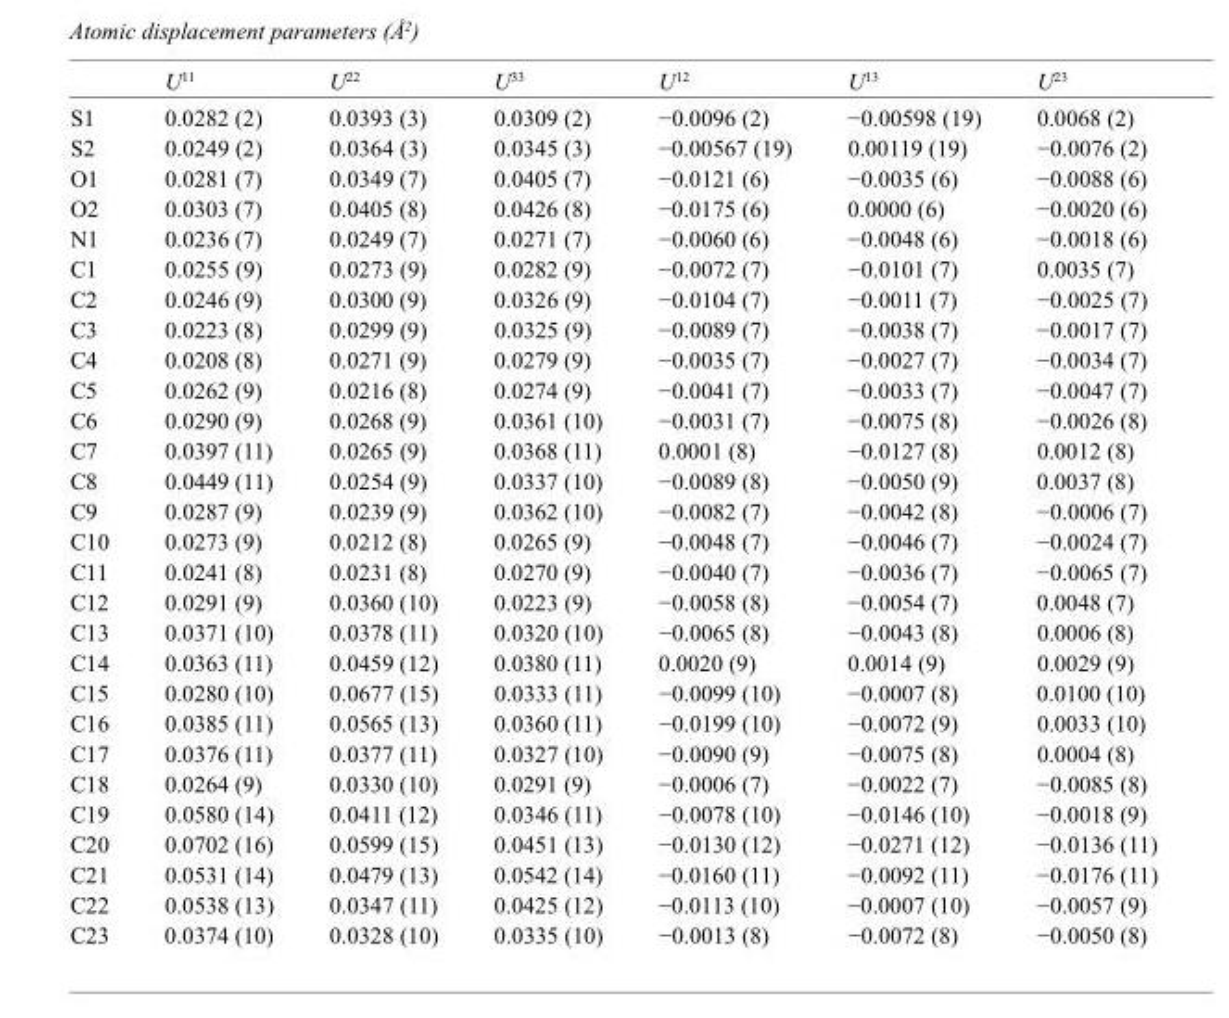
<table><thead><tr><td></td><td>U<sup>11</sup></td><td>U<sup>22</sup></td><td>U<sup>33</sup></td><td>U<sup>12</sup></td><td>U<sup>13</sup></td><td>U<sup>23</sup></td></tr></thead><tbody><tr><td>S1</td><td>0.0282 (2)</td><td>0.0393 (3)</td><td>0.0309 (2)</td><td>−0.0096 (2)</td><td>−0.00598 (19)</td><td>0.0068 (2)</td></tr><tr><td>S2</td><td>0.0249 (2)</td><td>0.0364 (3)</td><td>0.0345 (3)</td><td>−0.00567 (19)</td><td>0.00119 (19)</td><td>−0.0076 (2)</td></tr><tr><td>O1</td><td>0.0281 (7)</td><td>0.0349 (7)</td><td>0.0405 (7)</td><td>−0.0121 (6)</td><td>−0.0035 (6)</td><td>−0.0088 (6)</td></tr><tr><td>O2</td><td>0.0303 (7)</td><td>0.0405 (8)</td><td>0.0426 (8)</td><td>−0.0175 (6)</td><td>0.0000 (6)</td><td>−0.0020 (6)</td></tr><tr><td>N1</td><td>0.0236 (7)</td><td>0.0249 (7)</td><td>0.0271 (7)</td><td>−0.0060 (6)</td><td>−0.0048 (6)</td><td>−0.0018 (6)</td></tr><tr><td>C1</td><td>0.0255 (9)</td><td>0.0273 (9)</td><td>0.0282 (9)</td><td>−0.0072 (7)</td><td>−0.0101 (7)</td><td>0.0035 (7)</td></tr><tr><td>C2</td><td>0.0246 (9)</td><td>0.0300 (9)</td><td>0.0326 (9)</td><td>−0.0104 (7)</td><td>−0.0011 (7)</td><td>−0.0025 (7)</td></tr><tr><td>C3</td><td>0.0223 (8)</td><td>0.0299 (9)</td><td>0.0325 (9)</td><td>−0.0089 (7)</td><td>−0.0038 (7)</td><td>−0.0017 (7)</td></tr><tr><td>C4</td><td>0.0208 (8)</td><td>0.0271 (9)</td><td>0.0279 (9)</td><td>−0.0035 (7)</td><td>−0.0027 (7)</td><td>−0.0034 (7)</td></tr><tr><td>C5</td><td>0.0262 (9)</td><td>0.0216 (8)</td><td>0.0274 (9)</td><td>−0.0041 (7)</td><td>−0.0033 (7)</td><td>−0.0047 (7)</td></tr><tr><td>C6</td><td>0.0290 (9)</td><td>0.0268 (9)</td><td>0.0361 (10)</td><td>−0.0031 (7)</td><td>−0.0075 (8)</td><td>−0.0026 (8)</td></tr><tr><td>C7</td><td>0.0397 (11)</td><td>0.0265 (9)</td><td>0.0368 (11)</td><td>0.0001 (8)</td><td>−0.0127 (8)</td><td>0.0012 (8)</td></tr><tr><td>C8</td><td>0.0449 (11)</td><td>0.0254 (9)</td><td>0.0337 (10)</td><td>−0.0089 (8)</td><td>−0.0050 (9)</td><td>0.0037 (8)</td></tr><tr><td>C9</td><td>0.0287 (9)</td><td>0.0239 (9)</td><td>0.0362 (10)</td><td>−0.0082 (7)</td><td>−0.0042 (8)</td><td>−0.0006 (7)</td></tr><tr><td>C10</td><td>0.0273 (9)</td><td>0.0212 (8)</td><td>0.0265 (9)</td><td>−0.0048 (7)</td><td>−0.0046 (7)</td><td>−0.0024 (7)</td></tr><tr><td>C11</td><td>0.0241 (8)</td><td>0.0231 (8)</td><td>0.0270 (9)</td><td>−0.0040 (7)</td><td>−0.0036 (7)</td><td>−0.0065 (7)</td></tr><tr><td>C12</td><td>0.0291 (9)</td><td>0.0360 (10)</td><td>0.0223 (9)</td><td>−0.0058 (8)</td><td>−0.0054 (7)</td><td>0.0048 (7)</td></tr><tr><td>C13</td><td>0.0371 (10)</td><td>0.0378 (11)</td><td>0.0320 (10)</td><td>−0.0065 (8)</td><td>−0.0043 (8)</td><td>0.0006 (8)</td></tr><tr><td>C14</td><td>0.0363 (11)</td><td>0.0459 (12)</td><td>0.0380 (11)</td><td>0.0020 (9)</td><td>0.0014 (9)</td><td>0.0029 (9)</td></tr><tr><td>C15</td><td>0.0280 (10)</td><td>0.0677 (15)</td><td>0.0333 (11)</td><td>−0.0099 (10)</td><td>−0.0007 (8)</td><td>0.0100 (10)</td></tr><tr><td>C16</td><td>0.0385 (11)</td><td>0.0565 (13)</td><td>0.0360 (11)</td><td>−0.0199 (10)</td><td>−0.0072 (9)</td><td>0.0033 (10)</td></tr><tr><td>C17</td><td>0.0376 (11)</td><td>0.0377 (11)</td><td>0.0327 (10)</td><td>−0.0090 (9)</td><td>−0.0075 (8)</td><td>0.0004 (8)</td></tr><tr><td>C18</td><td>0.0264 (9)</td><td>0.0330 (10)</td><td>0.0291 (9)</td><td>−0.0006 (7)</td><td>−0.0022 (7)</td><td>−0.0085 (8)</td></tr><tr><td>C19</td><td>0.0580 (14)</td><td>0.0411 (12)</td><td>0.0346 (11)</td><td>−0.0078 (10)</td><td>−0.0146 (10)</td><td>−0.0018 (9)</td></tr><tr><td>C20</td><td>0.0702 (16)</td><td>0.0599 (15)</td><td>0.0451 (13)</td><td>−0.0130 (12)</td><td>−0.0271 (12)</td><td>−0.0136 (11)</td></tr><tr><td>C21</td><td>0.0531 (14)</td><td>0.0479 (13)</td><td>0.0542 (14)</td><td>−0.0160 (11)</td><td>−0.0092 (11)</td><td>−0.0176 (11)</td></tr><tr><td>C22</td><td>0.0538 (13)</td><td>0.0347 (11)</td><td>0.0425 (12)</td><td>−0.0113 (10)</td><td>−0.0007 (10)</td><td>−0.0057 (9)</td></tr><tr><td>C23</td><td>0.0374 (10)</td><td>0.0328 (10)</td><td>0.0335 (10)</td><td>−0.0013 (8)</td><td>−0.0072 (8)</td><td>−0.0050 (8)</td></tr></tbody></table>